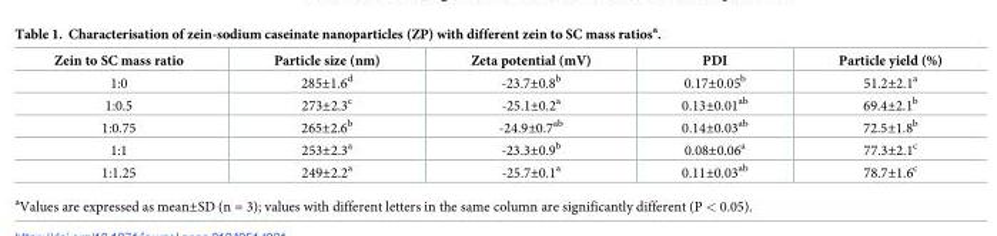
<table><thead><tr><td>Zein to SC mass ratio</td><td>Particle size (nm)</td><td>Zeta potential (mV)</td><td>PDI</td><td>Particle yield (%)</td></tr></thead><tbody><tr><td>1:0</td><td>285±1.6<sup>d</sup></td><td>-23.7±0.8<sup>b</sup></td><td>0.17±0.05<sup>b</sup></td><td>51.2±2.1<sup>a</sup></td></tr><tr><td>1:0.5</td><td>273±2.3<sup>c</sup></td><td>-25.1±0.2<sup>a</sup></td><td>0.13±0.01<sup>ab</sup></td><td>69.4±2.1<sup>b</sup></td></tr><tr><td>1:0.75</td><td>265±2.6<sup>b</sup></td><td>-24.9±0.7<sup>ab</sup></td><td>0.14±0.03<sup>ab</sup></td><td>72.5±1.8<sup>b</sup></td></tr><tr><td>1:1</td><td>253±2.3<sup>a</sup></td><td>-23.3±0.9<sup>b</sup></td><td>0.08±0.06<sup>a</sup></td><td>77.3±2.1<sup>c</sup></td></tr><tr><td>1:1.25</td><td>249±2.2<sup>a</sup></td><td>-25.7±0.1<sup>a</sup></td><td>0.11±0.03<sup>ab</sup></td><td>78.7±1.6<sup>c</sup></td></tr></tbody></table>